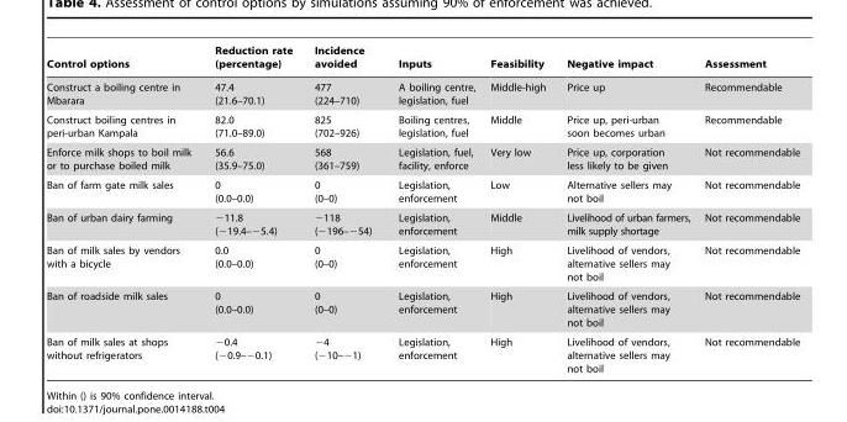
<table><thead><tr><td>Control options</td><td>Reduction rate (percentage)</td><td>Incidence avoided</td><td>Inputs</td><td>Feasibility</td><td>Negative impact</td><td>Assessment</td></tr></thead><tbody><tr><td>Construct a boiling centre in Mbarara</td><td>47.4 (21.6–70.1)</td><td>477 (224–710)</td><td>A boiling centre, legislation, fuel</td><td>Middle-high</td><td>Price up</td><td>Recommendable</td></tr><tr><td>Construct boiling centres in peri-urban Kampala</td><td>82.0 (71.0–89.0)</td><td>825 (702–926)</td><td>Boiling centres, legislation, fuel</td><td>Middle</td><td>Price up, peri-urban soon becomes urban</td><td>Recommendable</td></tr><tr><td>Enforce milk shops to boil milk or to purchase boiled milk</td><td>56.6 (35.9–75.0)</td><td>568 (361–759)</td><td>Legislation, fuel, facility, enforce</td><td>Very low</td><td>Price up, corporation less likely to be given</td><td>Not recommendable</td></tr><tr><td>Ban of farm gate milk sales</td><td>0 (0.0–0.0)</td><td>0 (0–0)</td><td>Legislation, enforcement</td><td>Low</td><td>Alternative sellers may not boil</td><td>Not recommendable</td></tr><tr><td>Ban of urban dairy farming</td><td>−11.8 (−19.4–−5.4)</td><td>−118 (−196–−54)</td><td>Legislation, enforcement</td><td>Middle</td><td>Livelihood of urban farmers, milk supply shortage</td><td>Not recommendable</td></tr><tr><td>Ban of milk sales by vendors with a bicycle</td><td>0.0 (0.0–0.0)</td><td>0 (0–0)</td><td>Legislation, enforcement</td><td>High</td><td>Livelihood of vendors, alternative sellers may not boil</td><td>Not recommendable</td></tr><tr><td>Ban of roadside milk sales</td><td>0 (0.0–0.0)</td><td>0 (0–0)</td><td>Legislation, enforcement</td><td>High</td><td>Livelihood of vendors, alternative sellers may not boil</td><td>Not recommendable</td></tr><tr><td>Ban of milk sales at shops without refrigerators</td><td>−0.4 (−0.9–−0.1)</td><td>−4 (−10–−1)</td><td>Legislation, enforcement</td><td>High</td><td>Livelihood of vendors, alternative sellers may not boil</td><td>Not recommendable</td></tr></tbody></table>